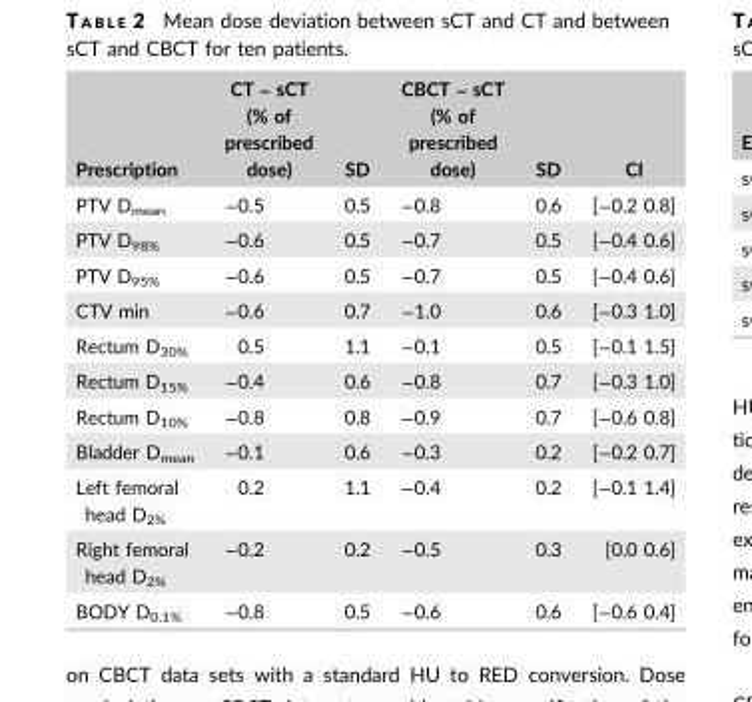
<table><thead><tr><td>Prescription</td><td>CT – sCT (% of prescribed dose)</td><td>SD</td><td>CBCT – sCT (% of prescribed dose)</td><td>SD</td><td>CI</td></tr></thead><tbody><tr><td>PTV D<sub>mean</sub></td><td>−0.5</td><td>0.5</td><td>−0.8</td><td>0.6</td><td>[−0.2 0.8]</td></tr><tr><td>PTV D<sub>98%</sub></td><td>−0.6</td><td>0.5</td><td>−0.7</td><td>0.5</td><td>[−0.4 0.6]</td></tr><tr><td>PTV D<sub>95%</sub></td><td>−0.6</td><td>0.5</td><td>−0.7</td><td>0.5</td><td>[−0.4 0.6]</td></tr><tr><td>CTV min</td><td>−0.6</td><td>0.7</td><td>−1.0</td><td>0.6</td><td>[−0.3 1.0]</td></tr><tr><td>Rectum D<sub>30%</sub></td><td>0.5</td><td>1.1</td><td>−0.1</td><td>0.5</td><td>[−0.1 1.5]</td></tr><tr><td>Rectum D<sub>15%</sub></td><td>−0.4</td><td>0.6</td><td>−0.8</td><td>0.7</td><td>[−0.3 1.0]</td></tr><tr><td>Rectum D<sub>10%</sub></td><td>−0.8</td><td>0.8</td><td>−0.9</td><td>0.7</td><td>[−0.6 0.8]</td></tr><tr><td>Bladder D<sub>mean</sub></td><td>−0.1</td><td>0.6</td><td>−0.3</td><td>0.2</td><td>[−0.2 0.7]</td></tr><tr><td>Left femoral head D<sub>2%</sub></td><td>0.2</td><td>1.1</td><td>−0.4</td><td>0.2</td><td>[−0.1 1.4]</td></tr><tr><td>Right femoral head D<sub>2%</sub></td><td>−0.2</td><td>0.2</td><td>−0.5</td><td>0.3</td><td>[0.0 0.6]</td></tr><tr><td>BODY D<sub>0.1%</sub></td><td>−0.8</td><td>0.5</td><td>−0.6</td><td>0.6</td><td>[−0.6 0.4]</td></tr></tbody></table>